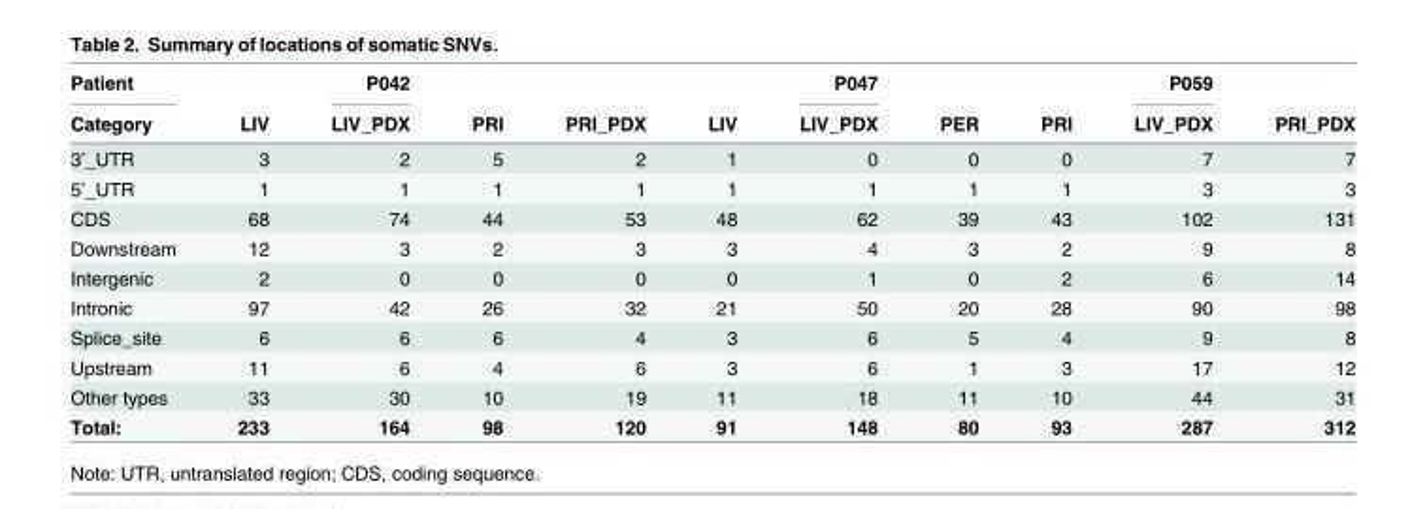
<table><thead><tr><td rowspan="2">Patient Category</td><td rowspan="2">LIV</td><td rowspan="2">P042 LIV_PDX</td><td rowspan="2">PRI</td><td rowspan="2">PRI_PDX</td><td rowspan="2">LIV</td><td rowspan="2">P047 LIV_PDX</td><td rowspan="2">PER</td><td rowspan="2">PRI</td><td rowspan="2">P059 LIV_PDX</td><td rowspan="2">PRI_PDX</td></tr><tr></tr></thead><tbody><tr><td>3’_UTR</td><td>3</td><td>2</td><td>5</td><td>2</td><td>1</td><td>0</td><td>0</td><td>0</td><td>7</td><td>7</td></tr><tr><td>5’_UTR</td><td>1</td><td>1</td><td>1</td><td>1</td><td>1</td><td>1</td><td>1</td><td>1</td><td>3</td><td>3</td></tr><tr><td>CDS</td><td>68</td><td>74</td><td>44</td><td>53</td><td>48</td><td>62</td><td>39</td><td>43</td><td>102</td><td>131</td></tr><tr><td>Downstream</td><td>12</td><td>3</td><td>2</td><td>3</td><td>3</td><td>4</td><td>3</td><td>2</td><td>9</td><td>8</td></tr><tr><td>Intergenic</td><td>2</td><td>0</td><td>0</td><td>0</td><td>0</td><td>1</td><td>0</td><td>2</td><td>6</td><td>14</td></tr><tr><td>Intronic</td><td>97</td><td>42</td><td>26</td><td>32</td><td>21</td><td>50</td><td>20</td><td>28</td><td>90</td><td>98</td></tr><tr><td>Splice_site</td><td>6</td><td>6</td><td>6</td><td>4</td><td>3</td><td>6</td><td>5</td><td>4</td><td>9</td><td>8</td></tr><tr><td>Upstream</td><td>11</td><td>6</td><td>4</td><td>6</td><td>3</td><td>6</td><td>1</td><td>3</td><td>17</td><td>12</td></tr><tr><td>Other types</td><td>33</td><td>30</td><td>10</td><td>19</td><td>11</td><td>18</td><td>11</td><td>10</td><td>44</td><td>31</td></tr><tr><td>Total:</td><td>233</td><td>164</td><td>98</td><td>120</td><td>91</td><td>148</td><td>80</td><td>93</td><td>287</td><td>312</td></tr></tbody></table>